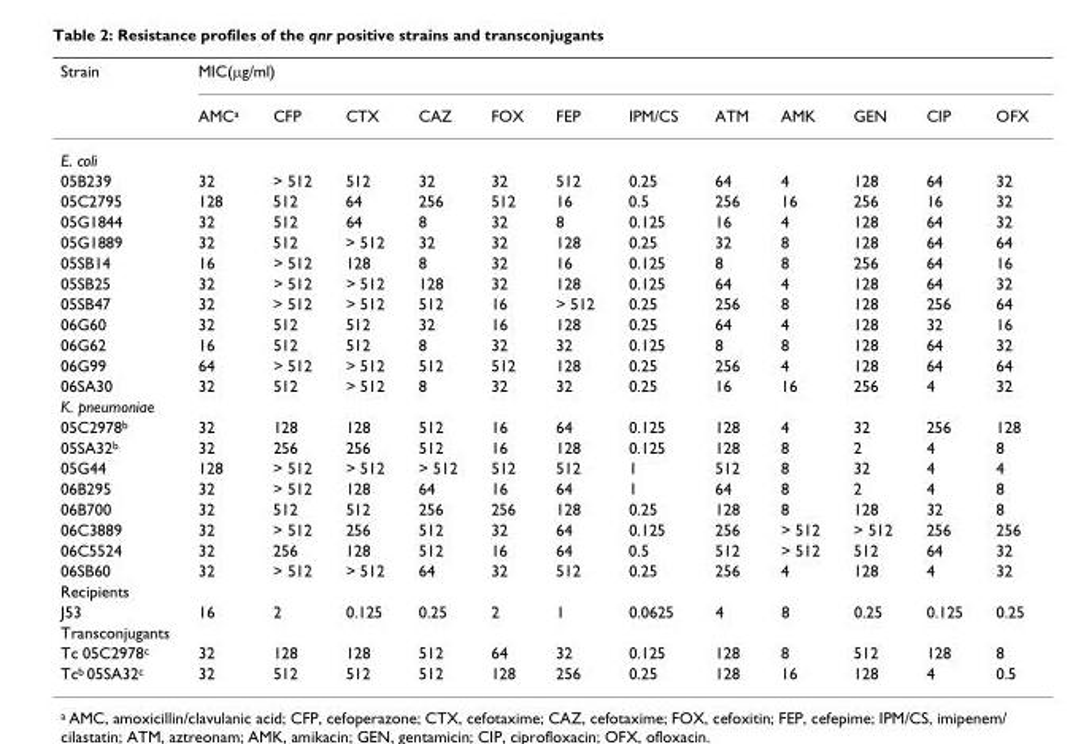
<table><thead><tr><td rowspan="2">Strain</td><td colspan="12">MIC(μg/ml)</td></tr><tr><td>AMC<sup>a</sup></td><td>CFP</td><td>CTX</td><td>CAZ</td><td>FOX</td><td>FEP</td><td>IPM/CS</td><td>ATM</td><td>AMK</td><td>GEN</td><td>CIP</td><td>OFX</td></tr></thead><tbody><tr><td colspan="13">E. coli</td></tr><tr><td>05B239</td><td>32</td><td>&gt; 512</td><td>512</td><td>32</td><td>32</td><td>512</td><td>0.25</td><td>64</td><td>4</td><td>128</td><td>64</td><td>32</td></tr><tr><td>05C2795</td><td>128</td><td>512</td><td>64</td><td>256</td><td>512</td><td>16</td><td>0.5</td><td>256</td><td>16</td><td>256</td><td>16</td><td>32</td></tr><tr><td>05G1844</td><td>32</td><td>512</td><td>64</td><td>8</td><td>32</td><td>8</td><td>0.125</td><td>16</td><td>4</td><td>128</td><td>64</td><td>32</td></tr><tr><td>05G1889</td><td>32</td><td>512</td><td>&gt; 512</td><td>32</td><td>32</td><td>128</td><td>0.25</td><td>32</td><td>8</td><td>128</td><td>64</td><td>64</td></tr><tr><td>05SB14</td><td>16</td><td>&gt; 512</td><td>128</td><td>8</td><td>32</td><td>16</td><td>0.125</td><td>8</td><td>8</td><td>256</td><td>64</td><td>16</td></tr><tr><td>05SB25</td><td>32</td><td>&gt; 512</td><td>&gt; 512</td><td>128</td><td>32</td><td>128</td><td>0.125</td><td>64</td><td>4</td><td>128</td><td>64</td><td>32</td></tr><tr><td>05SB47</td><td>32</td><td>&gt; 512</td><td>&gt; 512</td><td>512</td><td>16</td><td>&gt; 512</td><td>0.25</td><td>256</td><td>8</td><td>128</td><td>256</td><td>64</td></tr><tr><td>06G60</td><td>32</td><td>512</td><td>512</td><td>32</td><td>16</td><td>128</td><td>0.25</td><td>64</td><td>4</td><td>128</td><td>32</td><td>16</td></tr><tr><td>06G62</td><td>16</td><td>512</td><td>512</td><td>8</td><td>32</td><td>32</td><td>0.125</td><td>8</td><td>8</td><td>128</td><td>64</td><td>32</td></tr><tr><td>06G99</td><td>64</td><td>&gt; 512</td><td>&gt; 512</td><td>512</td><td>512</td><td>128</td><td>0.25</td><td>256</td><td>4</td><td>128</td><td>64</td><td>64</td></tr><tr><td>06SA30</td><td>32</td><td>512</td><td>&gt; 512</td><td>8</td><td>32</td><td>32</td><td>0.25</td><td>16</td><td>16</td><td>256</td><td>4</td><td>32</td></tr><tr><td colspan="13">K. pneumoniae</td></tr><tr><td>05C2978<sup>b</sup></td><td>32</td><td>128</td><td>128</td><td>512</td><td>16</td><td>64</td><td>0.125</td><td>128</td><td>4</td><td>32</td><td>256</td><td>128</td></tr><tr><td>05SA32<sup>b</sup></td><td>32</td><td>256</td><td>256</td><td>512</td><td>16</td><td>128</td><td>0.125</td><td>128</td><td>8</td><td>2</td><td>4</td><td>8</td></tr><tr><td>05G44</td><td>128</td><td>&gt; 512</td><td>&gt; 512</td><td>&gt; 512</td><td>512</td><td>512</td><td>1</td><td>512</td><td>8</td><td>32</td><td>4</td><td>4</td></tr><tr><td>06B295</td><td>32</td><td>&gt; 512</td><td>128</td><td>64</td><td>16</td><td>64</td><td>1</td><td>64</td><td>8</td><td>2</td><td>4</td><td>8</td></tr><tr><td>06B700</td><td>32</td><td>512</td><td>512</td><td>256</td><td>256</td><td>128</td><td>0.25</td><td>128</td><td>8</td><td>128</td><td>32</td><td>8</td></tr><tr><td>06C3889</td><td>32</td><td>&gt; 512</td><td>256</td><td>512</td><td>32</td><td>64</td><td>0.125</td><td>256</td><td>&gt; 512</td><td>&gt; 512</td><td>256</td><td>256</td></tr><tr><td>06C5524</td><td>32</td><td>256</td><td>128</td><td>512</td><td>16</td><td>64</td><td>0.5</td><td>512</td><td>&gt; 512</td><td>512</td><td>64</td><td>32</td></tr><tr><td>06SB60</td><td>32</td><td>&gt; 512</td><td>&gt; 512</td><td>64</td><td>32</td><td>512</td><td>0.25</td><td>256</td><td>4</td><td>128</td><td>4</td><td>32</td></tr><tr><td colspan="13">Recipients</td></tr><tr><td>J53</td><td>16</td><td>2</td><td>0.125</td><td>0.25</td><td>2</td><td>1</td><td>0.0625</td><td>4</td><td>8</td><td>0.25</td><td>0.125</td><td>0.25</td></tr><tr><td colspan="13">Transconjugants</td></tr><tr><td>Tc 05C2978<sup>c</sup></td><td>32</td><td>128</td><td>128</td><td>512</td><td>64</td><td>32</td><td>0.125</td><td>128</td><td>8</td><td>512</td><td>128</td><td>8</td></tr><tr><td>Tc<sup>b</sup> 05SA32<sup>c</sup></td><td>32</td><td>512</td><td>512</td><td>512</td><td>128</td><td>256</td><td>0.25</td><td>128</td><td>16</td><td>128</td><td>4</td><td>0.5</td></tr></tbody></table>